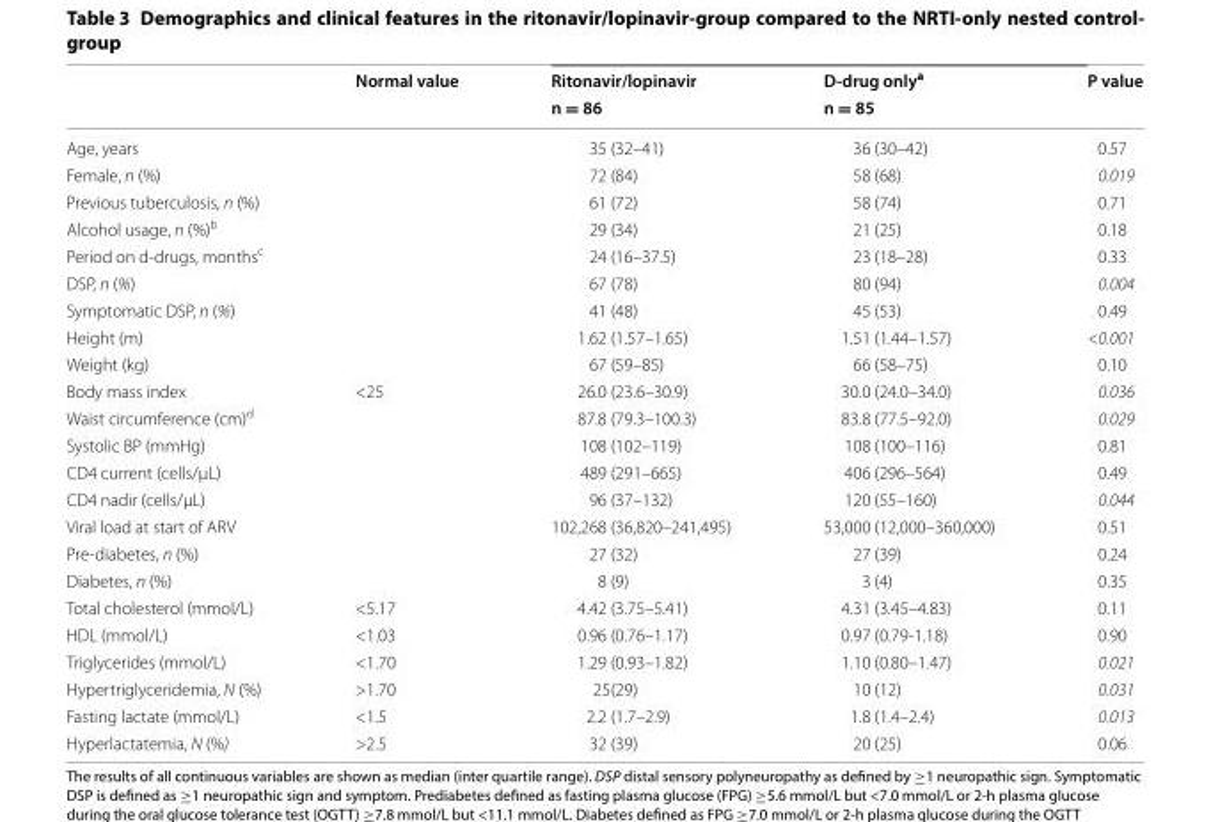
<table><thead><tr><td rowspan="2"></td><td rowspan="2">Normal value</td><td rowspan="2">Ritonavir/lopinavir n = 86</td><td rowspan="2">D‑drug only<sup>a</sup> n = 85</td><td rowspan="2">P value</td></tr><tr></tr></thead><tbody><tr><td>Age, years</td><td></td><td>35 (32–41)</td><td>36 (30–42)</td><td>0.57</td></tr><tr><td>Female, n (%)</td><td></td><td>72 (84)</td><td>58 (68)</td><td>0.019</td></tr><tr><td>Previous tuberculosis, n (%)</td><td></td><td>61 (72)</td><td>58 (74)</td><td>0.71</td></tr><tr><td>Alcohol usage, n (%)<sup>b</sup></td><td></td><td>29 (34)</td><td>21 (25)</td><td>0.18</td></tr><tr><td>Period on d‑drugs, months<sup>c</sup></td><td></td><td>24 (16–37.5)</td><td>23 (18–28)</td><td>0.33</td></tr><tr><td>DSP, n (%)</td><td></td><td>67 (78)</td><td>80 (94)</td><td>0.004</td></tr><tr><td>Symptomatic DSP, n (%)</td><td></td><td>41 (48)</td><td>45 (53)</td><td>0.49</td></tr><tr><td>Height (m)</td><td></td><td>1.62 (1.57–1.65)</td><td>1.51 (1.44–1.57)</td><td>&lt;0.001</td></tr><tr><td>Weight (kg)</td><td></td><td>67 (59–85)</td><td>66 (58–75)</td><td>0.10</td></tr><tr><td>Body mass index</td><td>&lt;25</td><td>26.0 (23.6–30.9)</td><td>30.0 (24.0–34.0)</td><td>0.036</td></tr><tr><td>Waist circumference (cm)<sup>d</sup></td><td></td><td>87.8 (79.3–100.3)</td><td>83.8 (77.5–92.0)</td><td>0.029</td></tr><tr><td>Systolic BP (mmHg)</td><td></td><td>108 (102–119)</td><td>108 (100–116)</td><td>0.81</td></tr><tr><td>CD4 current (cells/µL)</td><td></td><td>489 (291–665)</td><td>406 (296–564)</td><td>0.49</td></tr><tr><td>CD4 nadir (cells/µL)</td><td></td><td>96 (37–132)</td><td>120 (55–160)</td><td>0.044</td></tr><tr><td>Viral load at start of ARV</td><td></td><td>102,268 (36,820–241,495)</td><td>53,000 (12,000–360,000)</td><td>0.51</td></tr><tr><td>Pre‑diabetes, n (%)</td><td></td><td>27 (32)</td><td>27 (39)</td><td>0.24</td></tr><tr><td>Diabetes, n (%)</td><td></td><td>8 (9)</td><td>3 (4)</td><td>0.35</td></tr><tr><td>Total cholesterol (mmol/L)</td><td>&lt;5.17</td><td>4.42 (3.75–5.41)</td><td>4.31 (3.45–4.83)</td><td>0.11</td></tr><tr><td>HDL (mmol/L)</td><td>&lt;1.03</td><td>0.96 (0.76–1.17)</td><td>0.97 (0.79‑1.18)</td><td>0.90</td></tr><tr><td>Triglycerides (mmol/L)</td><td>&lt;1.70</td><td>1.29 (0.93–1.82)</td><td>1.10 (0.80–1.47)</td><td>0.021</td></tr><tr><td>Hypertriglyceridemia, N (%)</td><td>&gt;1.70</td><td>25(29)</td><td>10 (12)</td><td>0.031</td></tr><tr><td>Fasting lactate (mmol/L)</td><td>&lt;1.5</td><td>2.2 (1.7–2.9)</td><td>1.8 (1.4–2.4)</td><td>0.013</td></tr><tr><td>Hyperlactatemia, N (%)</td><td>&gt;2.5</td><td>32 (39)</td><td>20 (25)</td><td>0.06</td></tr></tbody></table>